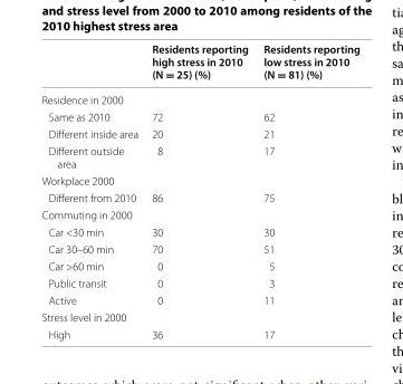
<table><thead><tr><td></td><td>Residents reporting high stress in 2010 (N = 25) (%)</td><td>Residents reporting low stress in 2010 (N = 81) (%)</td></tr></thead><tbody><tr><td colspan="3">Residence in 2000</td></tr><tr><td>Same as 2010</td><td>72</td><td>62</td></tr><tr><td>Different inside area</td><td>20</td><td>21</td></tr><tr><td>Different outside area</td><td>8</td><td>17</td></tr><tr><td colspan="3">Workplace 2000</td></tr><tr><td>Different from 2010</td><td>86</td><td>75</td></tr><tr><td colspan="3">Commuting in 2000</td></tr><tr><td>Car &lt;30 min</td><td>30</td><td>30</td></tr><tr><td>Car 30–60 min</td><td>70</td><td>51</td></tr><tr><td>Car &gt;60 min</td><td>0</td><td>5</td></tr><tr><td>Public transit</td><td>0</td><td>3</td></tr><tr><td>Active</td><td>0</td><td>11</td></tr><tr><td colspan="3">Stress level in 2000</td></tr><tr><td>High</td><td>36</td><td>17</td></tr></tbody></table>